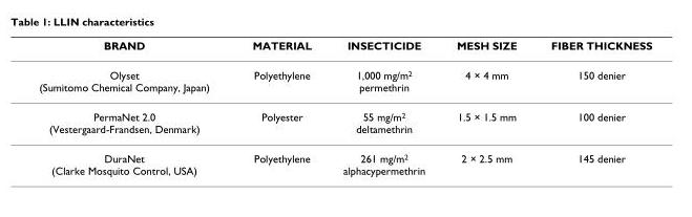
<table><thead><tr><td>BRAND</td><td>MATERIAL</td><td>INSECTICIDE</td><td>MESH SIZE</td><td>FIBER THICKNESS</td></tr></thead><tbody><tr><td>Olyset (Sumitomo Chemical Company, Japan)</td><td>Polyethylene</td><td>1,000 mg/m<sup>2</sup> permethrin</td><td>4 × 4 mm</td><td>150 denier</td></tr><tr><td>PermaNet 2.0 (Vestergaard-Frandsen, Denmark)</td><td>Polyester</td><td>55 mg/m<sup>2</sup> deltamethrin</td><td>1.5 × 1.5 mm</td><td>100 denier</td></tr><tr><td>DuraNet (Clarke Mosquito Control, USA)</td><td>Polyethylene</td><td>261 mg/m<sup>2</sup> alphacypermethrin</td><td>2 × 2.5 mm</td><td>145 denier</td></tr></tbody></table>